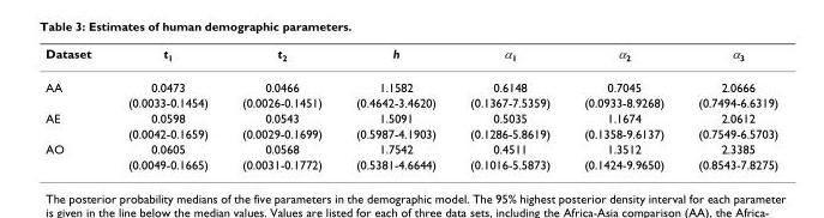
<table><thead><tr><td>Dataset</td><td>t<sub>1</sub></td><td>t<sub>2</sub></td><td>h</td><td>α<sub>1</sub></td><td>α<sub>2</sub></td><td>α<sub>3</sub></td></tr></thead><tbody><tr><td rowspan="2">AA</td><td>0.0473</td><td>0.0466</td><td>1.1582</td><td>0.6148</td><td>0.7045</td><td>2.0666</td></tr><tr><td>(0.0033-0.1454)</td><td>(0.0026-0.1451)</td><td>(0.4642-3.4620)</td><td>(0.1367-7.5359)</td><td>(0.0933-8.9268)</td><td>(0.7494-6.6319)</td></tr><tr><td rowspan="2">AE</td><td>0.0598</td><td>0.0543</td><td>1.5091</td><td>0.5035</td><td>1.1674</td><td>2.0612</td></tr><tr><td>(0.0042-0.1659)</td><td>(0.0029-0.1699)</td><td>(0.5987-4.1903)</td><td>(0.1286-5.8619)</td><td>(0.1358-9.6137)</td><td>(0.7549-6.5703)</td></tr><tr><td rowspan="2">AO</td><td>0.0605</td><td>0.0568</td><td>1.7542</td><td>0.4511</td><td>1.3512</td><td>2.3385</td></tr><tr><td>(0.0049-0.1665)</td><td>(0.0031-0.1772)</td><td>(0.5381-4.6644)</td><td>(0.1016-5.5873)</td><td>(0.1424-9.9650)</td><td>(0.8543-7.8275)</td></tr></tbody></table>